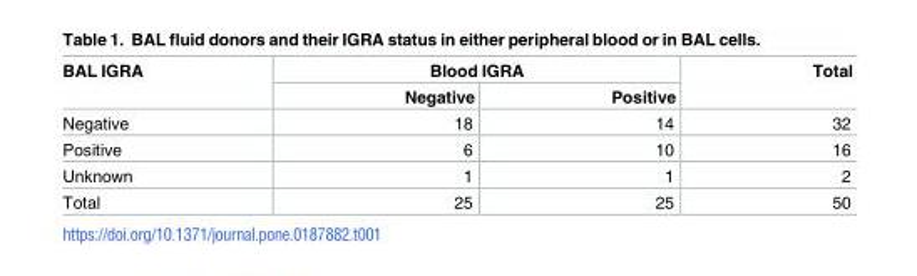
<table><thead><tr><td rowspan="2">BAL IGRA</td><td colspan="2">Blood IGRA</td><td rowspan="2">Total</td></tr><tr><td>Negative</td><td>Positive</td></tr></thead><tbody><tr><td>Negative</td><td>18</td><td>14</td><td>32</td></tr><tr><td>Positive</td><td>6</td><td>10</td><td>16</td></tr><tr><td>Unknown</td><td>1</td><td>1</td><td>2</td></tr><tr><td>Total</td><td>25</td><td>25</td><td>50</td></tr></tbody></table>